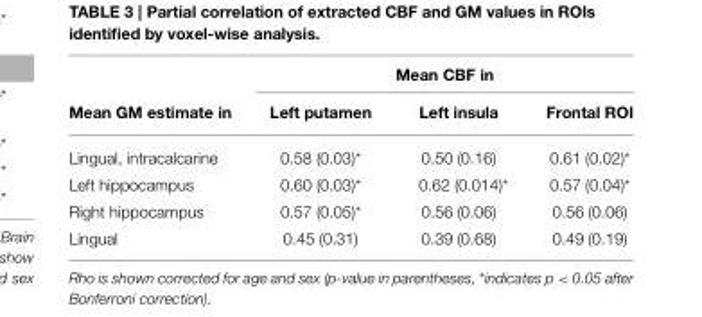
<table><thead><tr><td rowspan="2">Mean GM estimate in</td><td colspan="3">Mean CBF in</td></tr><tr><td>Left putamen</td><td>Left insula</td><td>Frontal ROI</td></tr></thead><tbody><tr><td>Lingual, intracalcarine</td><td>0.58 (0.03)*</td><td>0.50 (0.16)</td><td>0.61 (0.02)*</td></tr><tr><td>Left hippocampus</td><td>0.60 (0.03)*</td><td>0.62 (0.014)*</td><td>0.57 (0.04)*</td></tr><tr><td>Right hippocampus</td><td>0.57 (0.05)*</td><td>0.56 (0.06)</td><td>0.56 (0.06)</td></tr><tr><td>Lingual</td><td>0.45 (0.31)</td><td>0.39 (0.68)</td><td>0.49 (0.19)</td></tr></tbody></table>